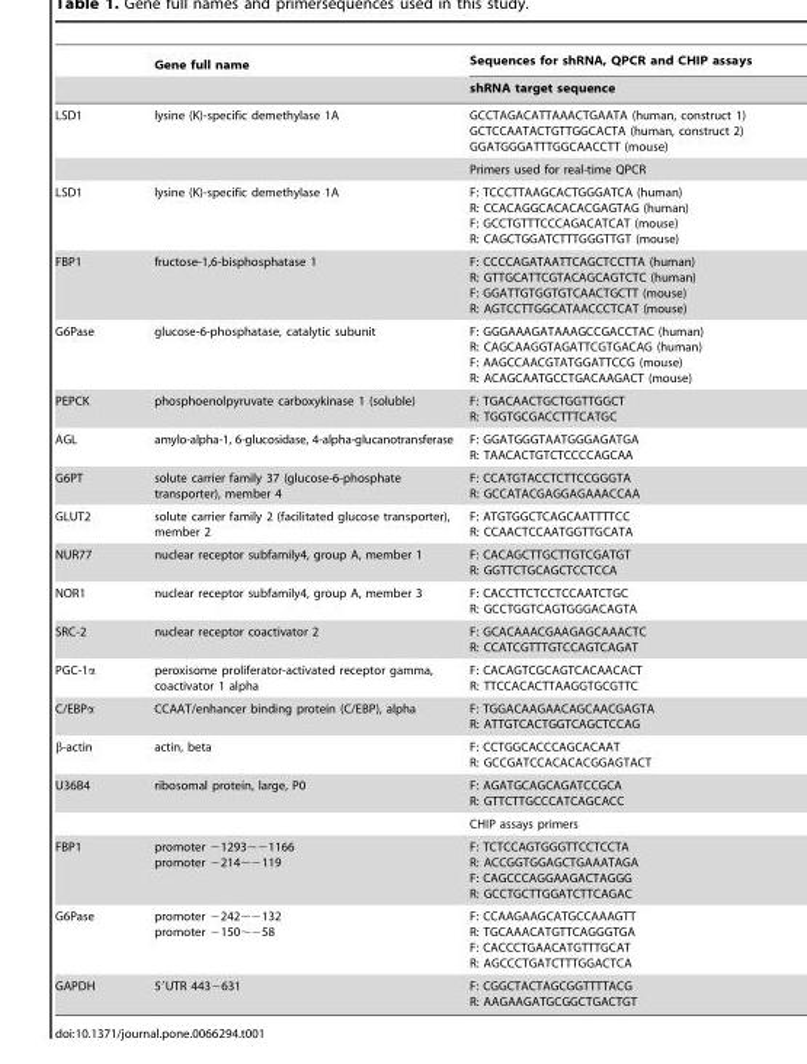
<table><thead><tr><td rowspan="2"></td><td rowspan="2">Gene full name</td><td rowspan="2">Sequences for shRNA, QPCR and CHIP assays shRNA target sequence</td></tr><tr></tr></thead><tbody><tr><td rowspan="2">LSD1</td><td>lysine (K)-specific demethylase 1A</td><td>GCCTAGACATTAAACTGAATA (human, construct 1) GCTCCAATACTGTTGGCACTA (human, construct 2) GGATGGGATTTGGCAACCTT (mouse)</td></tr><tr><td></td><td>Primers used for real-time QPCR</td></tr><tr><td>LSD1</td><td>lysine (K)-specific demethylase 1A</td><td>F: TCCCTTAAGCACTGGGATCA (human) R: CCACAGGCACACACGAGTAG (human) F: GCCTGTTTCCCAGACATCAT (mouse) R: CAGCTGGATCTTTGGGTTGT (mouse)</td></tr><tr><td>FBP1</td><td>fructose-1,6-bisphosphatase 1</td><td>F: CCCCAGATAATTCAGCTCCTTA (human) R: GTTGCATTCGTACAGCAGTCTC (human) F: GGATTGTGGTGTCAACTGCTT (mouse) R: AGTCCTTGGCATAACCCTCAT (mouse)</td></tr><tr><td>G6Pase</td><td>glucose-6-phosphatase, catalytic subunit</td><td>F: GGGAAAGATAAAGCCGACCTAC (human) R: CAGCAAGGTAGATTCGTGACAG (human) F: AAGCCAACGTATGGATTCCG (mouse) R: ACAGCAATGCCTGACAAGACT (mouse)</td></tr><tr><td>PEPCK</td><td>phosphoenolpyruvate carboxykinase 1 (soluble)</td><td>F: TGACAACTGCTGGTTGGCT R: TGGTGCGACCTTTCATGC</td></tr><tr><td>AGL</td><td>amylo-alpha-1, 6-glucosidase, 4-alpha-glucanotransferase</td><td>F: GGATGGGTAATGGGAGATGA R: TAACACTGTCTCCCCAGCAA</td></tr><tr><td>G6PT</td><td>solute carrier family 37 (glucose-6-phosphate transporter), member 4</td><td>F: CCATGTACCTCTTCCGGGTA R: GCCATACGAGGAGAAACCAA</td></tr><tr><td>GLUT2</td><td>solute carrier family 2 (facilitated glucose transporter), member 2</td><td>F: ATGTGGCTCAGCAATTTTCC R: CCAACTCCAATGGTTGCATA</td></tr><tr><td>NUR77</td><td>nuclear receptor subfamily4, group A, member 1</td><td>F: CACAGCTTGCTTGTCGATGT R: GGTTCTGCAGCTCCTCCA</td></tr><tr><td>NOR1</td><td>nuclear receptor subfamily4, group A, member 3</td><td>F: CACCTTCTCCTCCAATCTGC R: GCCTGGTCAGTGGGACAGTA</td></tr><tr><td>SRC-2</td><td>nuclear receptor coactivator 2</td><td>F: GCACAAACGAAGAGCAAACTC R: CCATCGTTTGTCCAGTCAGAT</td></tr><tr><td>PGC-1α</td><td>peroxisome proliferator-activated receptor gamma, coactivator 1 alpha</td><td>F: CACAGTCGCAGTCACAACACT R: TTCCACACTTAAGGTGCGTTC</td></tr><tr><td>C/EBPα</td><td>CCAAT/enhancer binding protein (C/EBP), alpha</td><td>F: TGGACAAGAACAGCAACGAGTA R: ATTGTCACTGGTCAGCTCCAG</td></tr><tr><td>β-actin</td><td>actin, beta</td><td>F: CCTGGCACCCAGCACAAT R: GCCGATCCACACACGGAGTACT</td></tr><tr><td rowspan="2">U36B4</td><td>ribosomal protein, large, P0</td><td>F: AGATGCAGCAGATCCGCA R: GTTCTTGCCCATCAGCACC</td></tr><tr><td></td><td>CHIP assays primers</td></tr><tr><td>FBP1</td><td>promoter −1293∼−1166 promoter −214∼−119</td><td>F: TCTCCAGTGGGTTCCTCCTA R: ACCGGTGGAGCTGAAATAGA F: CAGCCCAGGAAGACTAGGG R: GCCTGCTTGGATCTTCAGAC</td></tr><tr><td>G6Pase</td><td>promoter −242∼−132 promoter −150∼−58</td><td>F: CCAAGAAGCATGCCAAAGTT R: TGCAAACATGTTCAGGGTGA F: CACCCTGAACATGTTTGCAT R: AGCCCTGATCTTTGGACTCA</td></tr><tr><td>GAPDH</td><td>5′UTR 443−631</td><td>F: CGGCTACTAGCGGTTTTACG R: AAGAAGATGCGGCTGACTGT</td></tr></tbody></table>